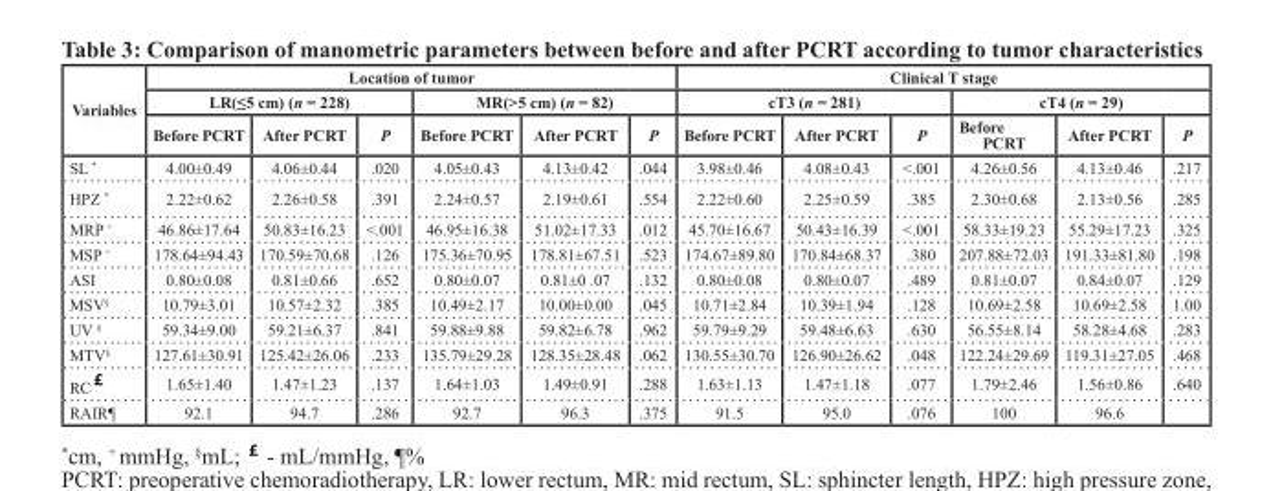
<table><thead><tr><td rowspan="3">Variables</td><td colspan="6">Location of tumor</td><td colspan="6">Clinical T stage</td></tr><tr><td colspan="3">LR(≤5 cm) (n = 228)</td><td colspan="3">MR(&gt;5 cm) (n = 82)</td><td colspan="3">cT3 (n = 281)</td><td colspan="3">cT4 (n = 29)</td></tr><tr><td>Before PCRT</td><td>After PCRT</td><td>P</td><td>Before PCRT</td><td>After PCRT</td><td>P</td><td>Before PCRT</td><td>After PCRT</td><td>P</td><td>Before PCRT</td><td>After PCRT</td><td>P</td></tr></thead><tbody><tr><td>SL *</td><td>4.00±0.49</td><td>4.06±0.44</td><td>.020</td><td>4.05±0.43</td><td>4.13±0.42</td><td>.044</td><td>3.98±0.46</td><td>4.08±0.43</td><td>&lt;.001</td><td>4.26±0.56</td><td>4.13±0.46</td><td>.217</td></tr><tr><td>HPZ *</td><td>2.22±0.62</td><td>2.26±0.58</td><td>.391</td><td>2.24±0.57</td><td>2.19±0.61</td><td>.554</td><td>2.22±0.60</td><td>2.25±0.59</td><td>.385</td><td>2.30±0.68</td><td>2.13±0.56</td><td>.285</td></tr><tr><td>MRP <sup>+</sup></td><td>46.86±17.64</td><td>50.83±16.23</td><td>&lt;.001</td><td>46.95±16.38</td><td>51.02±17.33</td><td>.012</td><td>45.70±16.67</td><td>50.43±16.39</td><td>&lt;.001</td><td>58.33±19.23</td><td>55.29±17.23</td><td>.325</td></tr><tr><td>MSP <sup>+</sup></td><td>178.64±94.43</td><td>170.59±70.68</td><td>.126</td><td>175.36±70.95</td><td>178.81±67.51</td><td>.523</td><td>174.67±89.80</td><td>170.84±68.37</td><td>.380</td><td>207.88±72.03</td><td>191.33±81.80</td><td>.198</td></tr><tr><td>ASI</td><td>0.80±0.08</td><td>0.81±0.66</td><td>.652</td><td>0.80±0.07</td><td>0.81±0 .07</td><td>.132</td><td>0.80±0.08</td><td>0.80±0.07</td><td>.489</td><td>0.81±0.07</td><td>0.84±0.07</td><td>.129</td></tr><tr><td>MSV<sup>§</sup></td><td>10.79±3.01</td><td>10.57±2.32</td><td>.385</td><td>10.49±2.17</td><td>10.00±0.00</td><td>.045</td><td>10.71±2.84</td><td>10.39±1.94</td><td>.128</td><td>10.69±2.58</td><td>10.69±2.58</td><td>1.00</td></tr><tr><td>UV <sup>§</sup></td><td>59.34±9.00</td><td>59.21±6.37</td><td>.841</td><td>59.88±9.88</td><td>59.82±6.78</td><td>.962</td><td>59.79±9.29</td><td>59.48±6.63</td><td>.630</td><td>56.55±8.14</td><td>58.28±4.68</td><td>.283</td></tr><tr><td>MTV<sup>§</sup></td><td>127.61±30.91</td><td>125.42±26.06</td><td>.233</td><td>135.79±29.28</td><td>128.35±28.48</td><td>.062</td><td>130.55±30.70</td><td>126.90±26.62</td><td>.048</td><td>122.24±29.69</td><td>119.31±27.05</td><td>.468</td></tr><tr><td>RC<sup>￡</sup></td><td>1.65±1.40</td><td>1.47±1.23</td><td>.137</td><td>1.64±1.03</td><td>1.49±0.91</td><td>.288</td><td>1.63±1.13</td><td>1.47±1.18</td><td>.077</td><td>1.79±2.46</td><td>1.56±0.86</td><td>.640</td></tr><tr><td>RAIR¶</td><td>92.1</td><td>94.7</td><td>.286</td><td>92.7</td><td>96.3</td><td>.375</td><td>91.5</td><td>95.0</td><td>.076</td><td>100</td><td>96.6</td><td></td></tr></tbody></table>